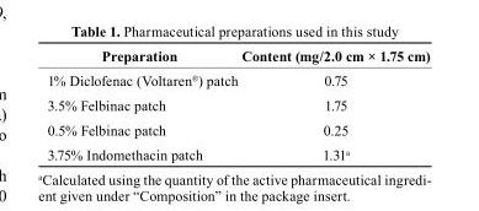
<table><thead><tr><td>Preparation</td><td>Content (mg/2.0 cm × 1.75 cm)</td></tr></thead><tbody><tr><td>1% Diclofenac (Voltaren<sup>®</sup>) patch</td><td>0.75</td></tr><tr><td>3.5% Felbinac patch</td><td>1.75</td></tr><tr><td>0.5% Felbinac patch</td><td>0.25</td></tr><tr><td>3.75% Indomethacin patch</td><td>1.31<sup>a</sup></td></tr></tbody></table>